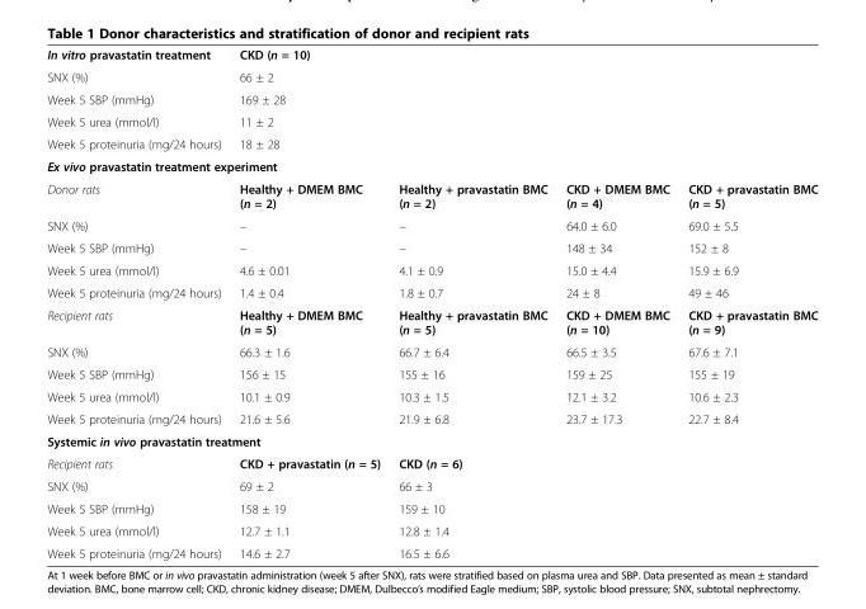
<table><tbody><tr><td>In vitro pravastatin treatment</td><td>CKD (n = 10)</td><td></td><td></td><td></td></tr><tr><td>SNX (%)</td><td>66 ± 2</td><td></td><td></td><td></td></tr><tr><td>Week 5 SBP (mmHg)</td><td>169 ± 28</td><td></td><td></td><td></td></tr><tr><td>Week 5 urea (mmol/l)</td><td>11 ± 2</td><td></td><td></td><td></td></tr><tr><td>Week 5 proteinuria (mg/24 hours)</td><td>18 ± 28</td><td></td><td></td><td></td></tr><tr><td colspan="5">Ex vivo pravastatin treatment experiment</td></tr><tr><td>Donor rats</td><td>Healthy + DMEM BMC (n = 2)</td><td>Healthy + pravastatin BMC (n = 2)</td><td>CKD + DMEM BMC (n = 4)</td><td>CKD + pravastatin BMC (n = 5)</td></tr><tr><td>SNX (%)</td><td>–</td><td>–</td><td>64.0 ± 6.0</td><td>69.0 ± 5.5</td></tr><tr><td>Week 5 SBP (mmHg)</td><td>–</td><td>–</td><td>148 ± 34</td><td>152 ± 8</td></tr><tr><td>Week 5 urea (mmol/l)</td><td>4.6 ± 0.01</td><td>4.1 ± 0.9</td><td>15.0 ± 4.4</td><td>15.9 ± 6.9</td></tr><tr><td>Week 5 proteinuria (mg/24 hours)</td><td>1.4 ± 0.4</td><td>1.8 ± 0.7</td><td>24 ± 8</td><td>49 ± 46</td></tr><tr><td>Recipient rats</td><td>Healthy + DMEM BMC (n = 5)</td><td>Healthy + pravastatin BMC (n = 5)</td><td>CKD + DMEM BMC (n = 10)</td><td>CKD + pravastatin BMC (n = 9)</td></tr><tr><td>SNX (%)</td><td>66.3 ± 1.6</td><td>66.7 ± 6.4</td><td>66.5 ± 3.5</td><td>67.6 ± 7.1</td></tr><tr><td>Week 5 SBP (mmHg)</td><td>156 ± 15</td><td>155 ± 16</td><td>159 ± 25</td><td>155 ± 19</td></tr><tr><td>Week 5 urea (mmol/l)</td><td>10.1 ± 0.9</td><td>10.3 ± 1.5</td><td>12.1 ± 3.2</td><td>10.6 ± 2.3</td></tr><tr><td>Week 5 proteinuria (mg/24 hours)</td><td>21.6 ± 5.6</td><td>21.9 ± 6.8</td><td>23.7 ± 17.3</td><td>22.7 ± 8.4</td></tr><tr><td colspan="5">Systemic in vivo pravastatin treatment</td></tr><tr><td>Recipient rats</td><td>CKD + pravastatin (n = 5)</td><td>CKD (n = 6)</td><td></td><td></td></tr><tr><td>SNX (%)</td><td>69 ± 2</td><td>66 ± 3</td><td></td><td></td></tr><tr><td>Week 5 SBP (mmHg)</td><td>158 ± 19</td><td>159 ± 10</td><td></td><td></td></tr><tr><td>Week 5 urea (mmol/l)</td><td>12.7 ± 1.1</td><td>12.8 ± 1.4</td><td></td><td></td></tr><tr><td>Week 5 proteinuria (mg/24 hours)</td><td>14.6 ± 2.7</td><td>16.5 ± 6.6</td><td></td><td></td></tr></tbody></table>